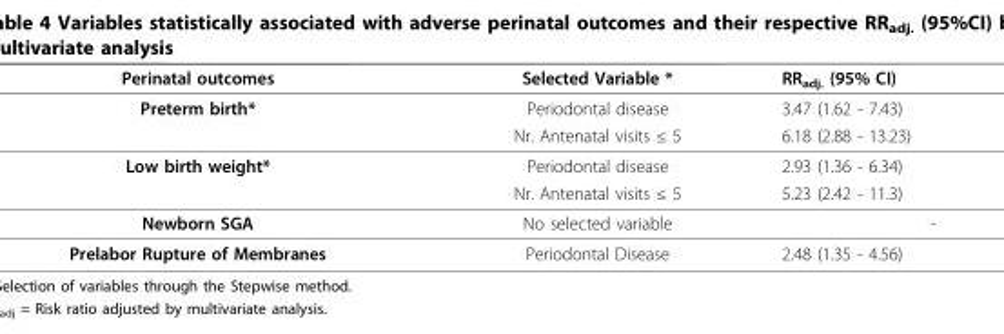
<table><thead><tr><td>Perinatal outcomes</td><td>Selected Variable *</td><td>RR<sub>adj.</sub> (95% CI)</td></tr></thead><tbody><tr><td rowspan="2">Preterm birth*</td><td>Periodontal disease</td><td>3.47 (1.62 - 7.43)</td></tr><tr><td>Nr. Antenatal visits ≤ 5</td><td>6.18 (2.88 - 13.23)</td></tr><tr><td rowspan="2">Low birth weight*</td><td>Periodontal disease</td><td>2.93 (1.36 - 6.34)</td></tr><tr><td>Nr. Antenatal visits ≤ 5</td><td>5.23 (2.42 - 11.3)</td></tr><tr><td>Newborn SGA</td><td>No selected variable</td><td>-</td></tr><tr><td>Prelabor Rupture of Membranes</td><td>Periodontal Disease</td><td>2.48 (1.35 - 4.56)</td></tr></tbody></table>